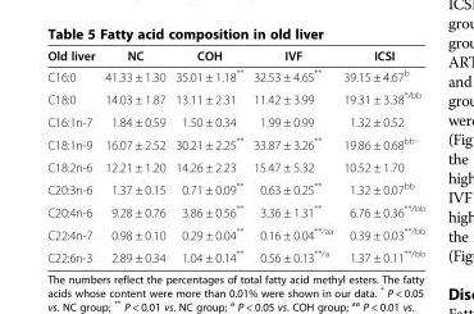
<table><thead><tr><td>Old liver</td><td>NC</td><td>COH</td><td>IVF</td><td>ICSI</td></tr></thead><tbody><tr><td>C16:0</td><td>41.33 ± 1.30</td><td>35.01 ± 1.18**</td><td>32.53 ± 4.65**</td><td>39.15 ± 4.67<sup>b</sup></td></tr><tr><td>C18:0</td><td>14.03 ± 1.87</td><td>13.11 ± 2.31</td><td>11.42 ± 3.99</td><td>19.31 ± 3.38<sup>*/bb</sup></td></tr><tr><td>C16:1n-7</td><td>1.84 ± 0.59</td><td>1.50 ± 0.34</td><td>1.99 ± 0.99</td><td>1.32 ± 0.52</td></tr><tr><td>C18:1n-9</td><td>16.07 ± 2.52</td><td>30.21 ± 2.25**</td><td>33.87 ± 3.26**</td><td>19.86 ± 0.68<sup>bb</sup></td></tr><tr><td>C18:2n-6</td><td>12.21 ± 1.20</td><td>14.26 ± 2.23</td><td>15.47 ± 5.32</td><td>10.52 ± 1.70</td></tr><tr><td>C20:3n-6</td><td>1.37 ± 0.15</td><td>0.71 ± 0.09**</td><td>0.63 ± 0.25**</td><td>1.32 ± 0.07<sup>bb</sup></td></tr><tr><td>C20:4n-6</td><td>9.28 ± 0.76</td><td>3.86 ± 0.56**</td><td>3.36 ± 1.31**</td><td>6.76 ± 0.36<sup>**/bb</sup></td></tr><tr><td>C22:4n-7</td><td>0.98 ± 0.10</td><td>0.29 ± 0.04**</td><td>0.16 ± 0.04<sup>**/aa</sup></td><td>0.39 ± 0.03<sup>**/bb</sup></td></tr><tr><td>C22:6n-3</td><td>2.89 ± 0.34</td><td>1.04 ± 0.14**</td><td>0.56 ± 0.13<sup>**/a</sup></td><td>1.37 ± 0.11<sup>**/bb</sup></td></tr></tbody></table>